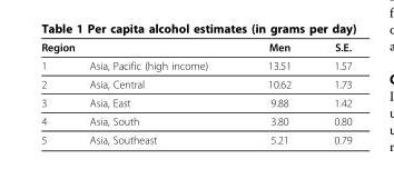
<table><thead><tr><td colspan="2">Region</td><td rowspan="2">Men 13.51</td><td rowspan="2">S.E. 1.57</td></tr><tr><td>1</td><td>Asia, Pacific (high income)</td></tr></thead><tbody><tr><td>2</td><td>Asia, Central</td><td>10.62</td><td>1.73</td></tr><tr><td>3</td><td>Asia, East</td><td>9.88</td><td>1.42</td></tr><tr><td>4</td><td>Asia, South</td><td>3.80</td><td>0.80</td></tr><tr><td>5</td><td>Asia, Southeast</td><td>5.21</td><td>0.79</td></tr></tbody></table>